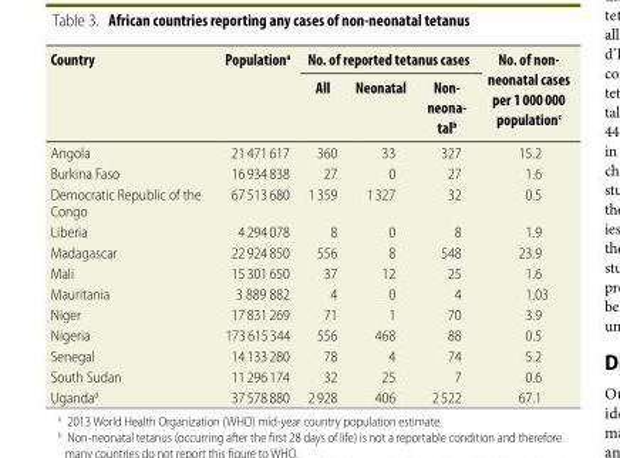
<table><thead><tr><td rowspan="2">Country</td><td rowspan="2">Population<sup>a</sup></td><td colspan="3">No. of reported tetanus cases</td><td rowspan="2">No. of non- neonatal cases per 1 000 000 population<sup>c</sup></td></tr><tr><td>All</td><td>Neonatal</td><td>Non- neona- talb</td></tr></thead><tbody><tr><td>Angola</td><td>21 471 617</td><td>360</td><td>33</td><td>327</td><td>15.2</td></tr><tr><td>Burkina Faso</td><td>16 934 838</td><td>27</td><td>0</td><td>27</td><td>1.6</td></tr><tr><td>Democratic Republic of the Congo</td><td>67 513 680</td><td>1 359</td><td>1 327</td><td>32</td><td>0.5</td></tr><tr><td>Liberia</td><td>4 294 078</td><td>8</td><td>0</td><td>8</td><td>1.9</td></tr><tr><td>Madagascar</td><td>22 924 850</td><td>556</td><td>8</td><td>548</td><td>23.9</td></tr><tr><td>Mali</td><td>15 301 650</td><td>37</td><td>12</td><td>25</td><td>1.6</td></tr><tr><td>Mauritania</td><td>3 889 882</td><td>4</td><td>0</td><td>4</td><td>1.03</td></tr><tr><td>Niger</td><td>17 831 269</td><td>71</td><td>1</td><td>70</td><td>3.9</td></tr><tr><td>Nigeria</td><td>173 615 344</td><td>556</td><td>468</td><td>88</td><td>0.5</td></tr><tr><td>Senegal</td><td>14 133 280</td><td>78</td><td>4</td><td>74</td><td>5.2</td></tr><tr><td>South Sudan</td><td>11 296 174</td><td>32</td><td>25</td><td>7</td><td>0.6</td></tr><tr><td>Uganda<sup>d</sup></td><td>37 578 880</td><td>2 928</td><td>406</td><td>2 522</td><td>67.1</td></tr></tbody></table>